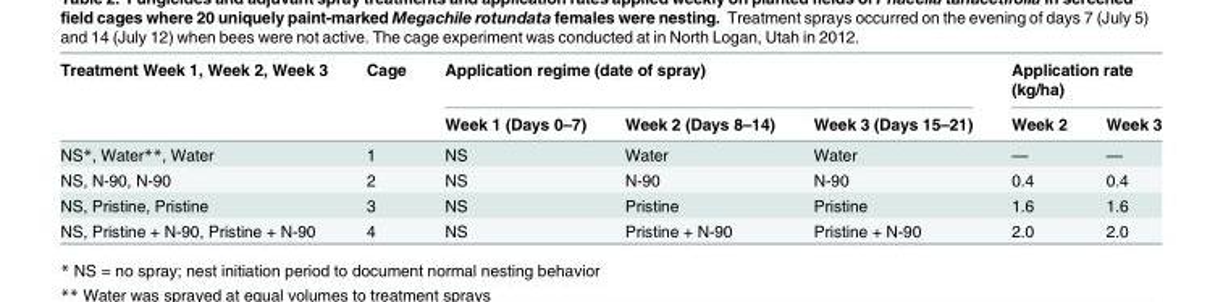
<table><thead><tr><td rowspan="2">Treatment Week 1, Week 2, Week 3</td><td rowspan="2">Cage</td><td colspan="3">Application regime (date of spray)</td><td colspan="2">Application rate (kg/ha)</td></tr><tr><td>Week 1 (Days 0–7)</td><td>Week 2 (Days 8–14)</td><td>Week 3 (Days 15–21)</td><td>Week 2</td><td>Week 3</td></tr></thead><tbody><tr><td>NS*, Water**, Water</td><td>1</td><td>NS</td><td>Water</td><td>Water</td><td>—</td><td>—</td></tr><tr><td>NS, N-90, N-90</td><td>2</td><td>NS</td><td>N-90</td><td>N-90</td><td>0.4</td><td>0.4</td></tr><tr><td>NS, Pristine, Pristine</td><td>3</td><td>NS</td><td>Pristine</td><td>Pristine</td><td>1.6</td><td>1.6</td></tr><tr><td>NS, Pristine + N-90, Pristine + N-90</td><td>4</td><td>NS</td><td>Pristine + N-90</td><td>Pristine + N-90</td><td>2.0</td><td>2.0</td></tr></tbody></table>